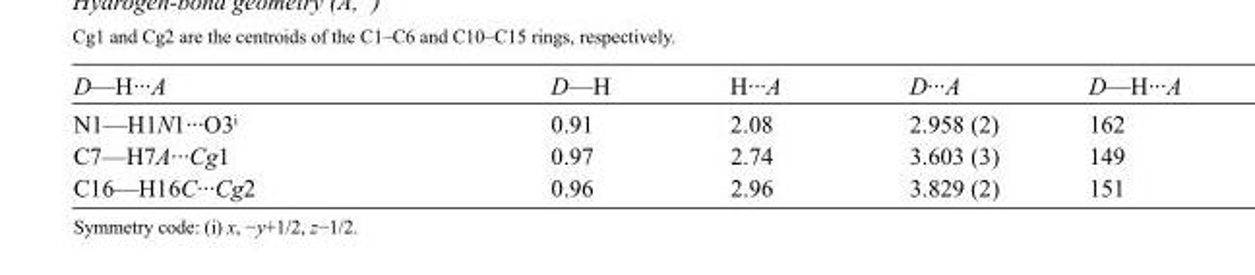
<table><tbody><tr><td>D—H···A</td><td>D—H</td><td>H···A</td><td>D···A</td><td>D—H···A</td></tr><tr><td>N1—H1N1···O3<sup>i</sup></td><td>0.91</td><td>2.08</td><td>2.958 (2)</td><td>162</td></tr><tr><td>C7—H7A···Cg1</td><td>0.97</td><td>2.74</td><td>3.603 (3)</td><td>149</td></tr><tr><td>C16—H16C···Cg2</td><td>0.96</td><td>2.96</td><td>3.829 (2)</td><td>151</td></tr></tbody></table>